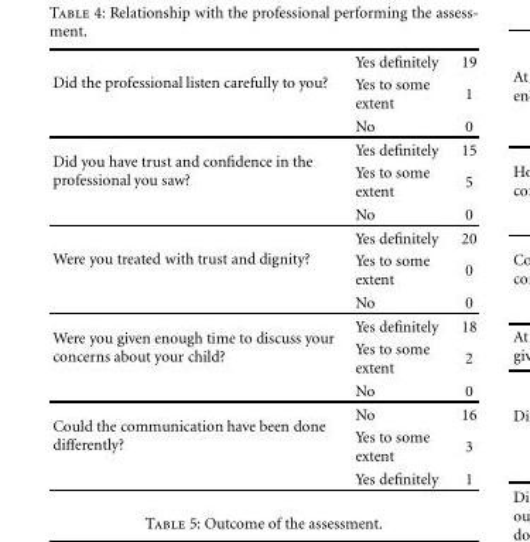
<table><tbody><tr><td rowspan="3">Did the professional listen carefully to you?</td><td>Yes definitely</td><td>19</td></tr><tr><td>Yes to some extent</td><td>1</td></tr><tr><td>No</td><td>0</td></tr><tr><td rowspan="3">Did you have trust and confidence in the professional you saw?</td><td>Yes definitely</td><td>15</td></tr><tr><td>Yes to some extent</td><td>5</td></tr><tr><td>No</td><td>0</td></tr><tr><td rowspan="3">Were you treated with trust and dignity?</td><td>Yes definitely</td><td>20</td></tr><tr><td>Yes to some extent</td><td>0</td></tr><tr><td>No</td><td>0</td></tr><tr><td rowspan="3">Were you given enough time to discuss your concerns about your child?</td><td>Yes definitely</td><td>18</td></tr><tr><td>Yes to some extent</td><td>2</td></tr><tr><td>No</td><td>0</td></tr><tr><td rowspan="3">Could the communication have been done differently?</td><td>No</td><td>16</td></tr><tr><td>Yes to some extent</td><td>3</td></tr><tr><td>Yes definitely</td><td>1</td></tr></tbody></table>